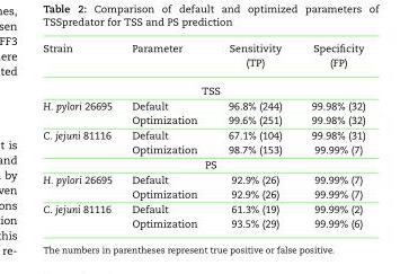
<table><thead><tr><td>Strain</td><td>Parameter</td><td>Sensitivity (TP)</td><td>Specificity (FP)</td></tr></thead><tbody><tr><td colspan="4">TSS</td></tr><tr><td rowspan="2">H. pylori 26695</td><td>Default</td><td>96.8% (244)</td><td>99.98% (32)</td></tr><tr><td>Optimization</td><td>99.6% (251)</td><td>99.98% (32)</td></tr><tr><td rowspan="2">C. jejuni 81116</td><td>Default</td><td>67.1% (104)</td><td>99.98% (31)</td></tr><tr><td>Optimization</td><td>98.7% (153)</td><td>99.99% (7)</td></tr><tr><td colspan="4">PS</td></tr><tr><td rowspan="2">H. pylori 26695</td><td>Default</td><td>92.9% (26)</td><td>99.99% (7)</td></tr><tr><td>Optimization</td><td>92.9% (26)</td><td>99.99% (7)</td></tr><tr><td rowspan="2">C. jejuni 81116</td><td>Default</td><td>61.3% (19)</td><td>99.99% (2)</td></tr><tr><td>Optimization</td><td>93.5% (29)</td><td>99.99% (6)</td></tr></tbody></table>